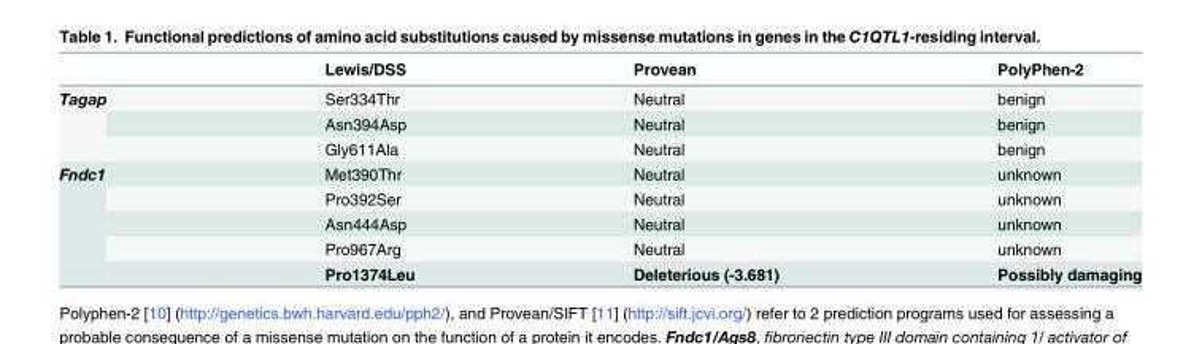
<table><thead><tr><td></td><td>Lewis/DSS</td><td>Provean</td><td>PolyPhen-2</td></tr></thead><tbody><tr><td rowspan="3">Tagap</td><td>Ser334Thr</td><td>Neutral</td><td>benign</td></tr><tr><td>Asn394Asp</td><td>Neutral</td><td>benign</td></tr><tr><td>Gly611Ala</td><td>Neutral</td><td>benign</td></tr><tr><td rowspan="5">Fndc1</td><td>Met390Thr</td><td>Neutral</td><td>unknown</td></tr><tr><td>Pro392Ser</td><td>Neutral</td><td>unknown</td></tr><tr><td>Asn444Asp</td><td>Neutral</td><td>unknown</td></tr><tr><td>Pro967Arg</td><td>Neutral</td><td>unknown</td></tr><tr><td>Pro1374Leu</td><td>Deleterious (-3.681)</td><td>Possibly damaging</td></tr></tbody></table>